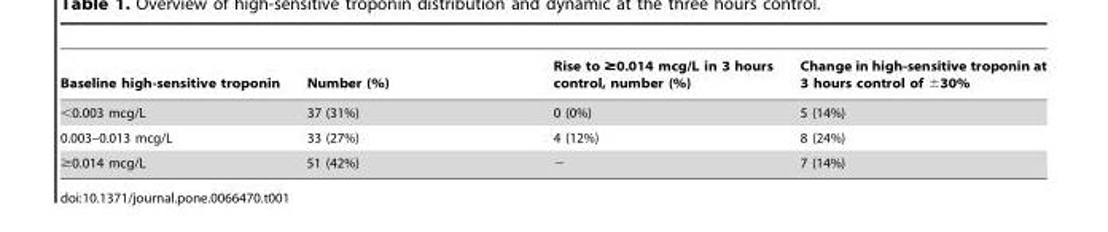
<table><thead><tr><td>Baseline high-sensitive troponin</td><td>Number (%)</td><td>Rise to ≥0.014 mcg/L in 3 hours control, number (%)</td><td>Change in high-sensitive troponin at 3 hours control of ±30%</td></tr></thead><tbody><tr><td>&lt;0.003 mcg/L</td><td>37 (31%)</td><td>0 (0%)</td><td>5 (14%)</td></tr><tr><td>0.003–0.013 mcg/L</td><td>33 (27%)</td><td>4 (12%)</td><td>8 (24%)</td></tr><tr><td>≥0.014 mcg/L</td><td>51 (42%)</td><td>−</td><td>7 (14%)</td></tr></tbody></table>